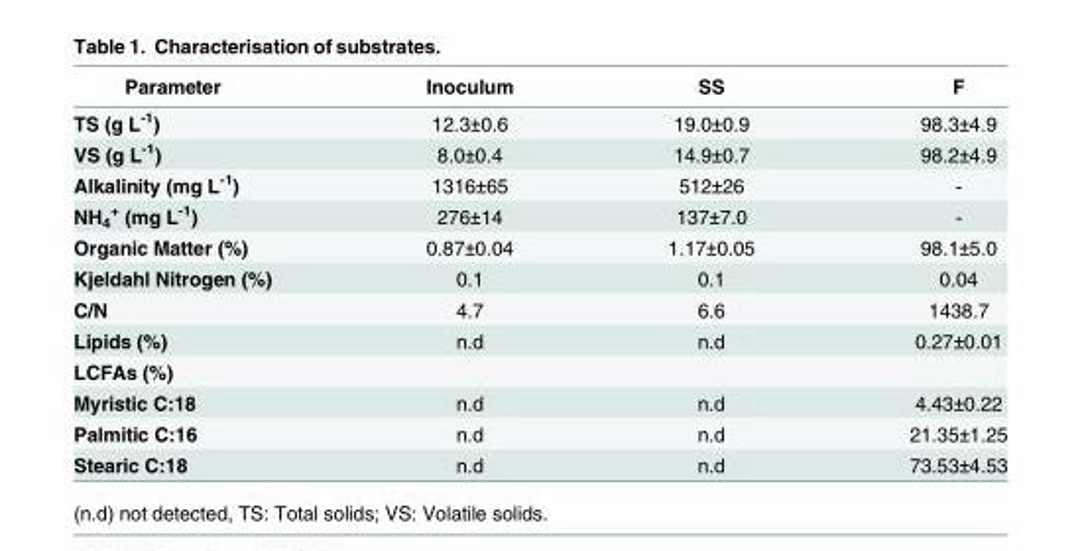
<table><thead><tr><td>Parameter</td><td>Inoculum</td><td>SS</td><td>F</td></tr></thead><tbody><tr><td>TS (g L<sup>-1</sup>)</td><td>12.3±0.6</td><td>19.0±0.9</td><td>98.3±4.9</td></tr><tr><td>VS (g L<sup>-1</sup>)</td><td>8.0±0.4</td><td>14.9±0.7</td><td>98.2±4.9</td></tr><tr><td>Alkalinity (mg L<sup>-1</sup>)</td><td>1316±65</td><td>512±26</td><td>-</td></tr><tr><td>NH<sub>4</sub> <sup>+</sup> (mg L<sup>-1</sup>)</td><td>276±14</td><td>137±7.0</td><td>-</td></tr><tr><td>Organic Matter (%)</td><td>0.87±0.04</td><td>1.17±0.05</td><td>98.1±5.0</td></tr><tr><td>Kjeldahl Nitrogen (%)</td><td>0.1</td><td>0.1</td><td>0.04</td></tr><tr><td>C/N</td><td>4.7</td><td>6.6</td><td>1438.7</td></tr><tr><td>Lipids (%)</td><td>n.d</td><td>n.d</td><td>0.27±0.01</td></tr><tr><td colspan="4">LCFAs (%)</td></tr><tr><td>Myristic C:18</td><td>n.d</td><td>n.d</td><td>4.43±0.22</td></tr><tr><td>Palmitic C:16</td><td>n.d</td><td>n.d</td><td>21.35±1.25</td></tr><tr><td>Stearic C:18</td><td>n.d</td><td>n.d</td><td>73.53±4.53</td></tr></tbody></table>